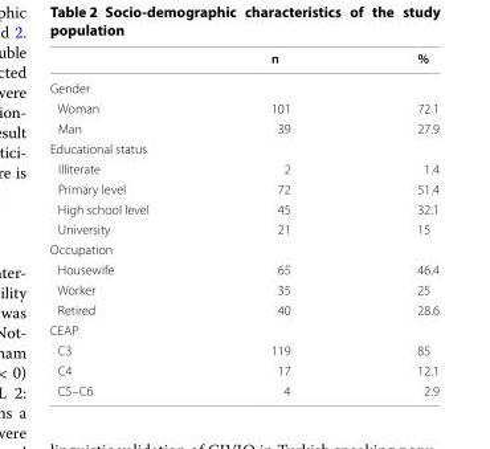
<table><thead><tr><td></td><td>n</td><td>%</td></tr></thead><tbody><tr><td colspan="3">Gender</td></tr><tr><td>Woman</td><td>101</td><td>72.1</td></tr><tr><td>Man</td><td>39</td><td>27.9</td></tr><tr><td colspan="3">Educational status</td></tr><tr><td>Illiterate</td><td>2</td><td>1.4</td></tr><tr><td>Primary level</td><td>72</td><td>51.4</td></tr><tr><td>High school level</td><td>45</td><td>32.1</td></tr><tr><td>University</td><td>21</td><td>15</td></tr><tr><td colspan="3">Occupation</td></tr><tr><td>Housewife</td><td>65</td><td>46.4</td></tr><tr><td>Worker</td><td>35</td><td>25</td></tr><tr><td>Retired</td><td>40</td><td>28.6</td></tr><tr><td colspan="3">CEAP</td></tr><tr><td>C3</td><td>119</td><td>85</td></tr><tr><td>C4</td><td>17</td><td>12.1</td></tr><tr><td>C5–C6</td><td>4</td><td>2.9</td></tr></tbody></table>